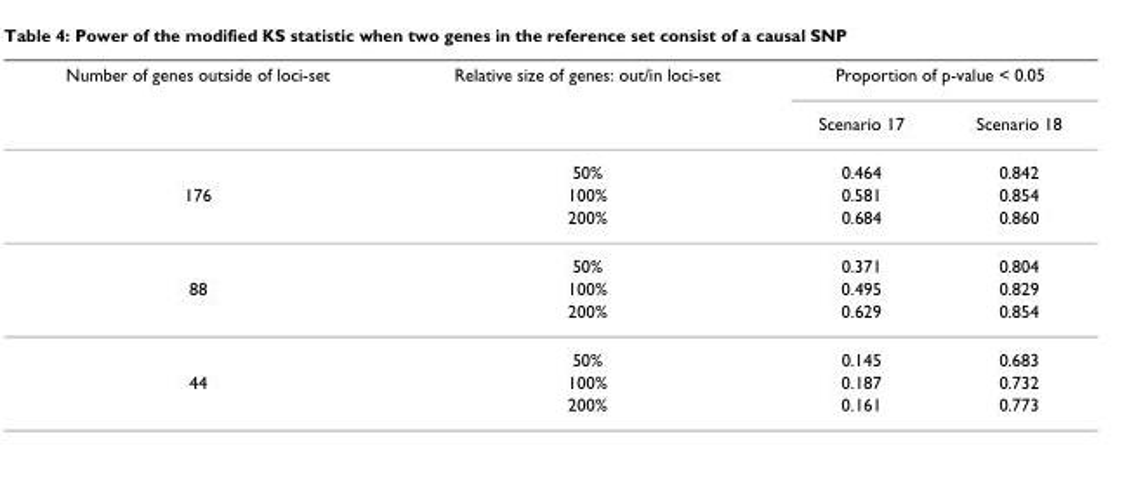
<table><thead><tr><td rowspan="2">Number of genes outside of loci-set</td><td rowspan="2">Relative size of genes: out/in loci-set</td><td colspan="2">Proportion of p-value &lt; 0.05</td></tr><tr><td>Scenario 17</td><td>Scenario 18</td></tr></thead><tbody><tr><td></td><td>50%</td><td>0.464</td><td>0.842</td></tr><tr><td rowspan="3">176</td><td>100%</td><td>0.581</td><td>0.854</td></tr><tr><td>200%</td><td>0.684</td><td>0.860</td></tr><tr><td>50%</td><td>0.371</td><td>0.804</td></tr><tr><td rowspan="3">88</td><td>100%</td><td>0.495</td><td>0.829</td></tr><tr><td>200%</td><td>0.629</td><td>0.854</td></tr><tr><td>50%</td><td>0.145</td><td>0.683</td></tr><tr><td rowspan="2">44</td><td>100%</td><td>0.187</td><td>0.732</td></tr><tr><td>200%</td><td>0.161</td><td>0.773</td></tr></tbody></table>